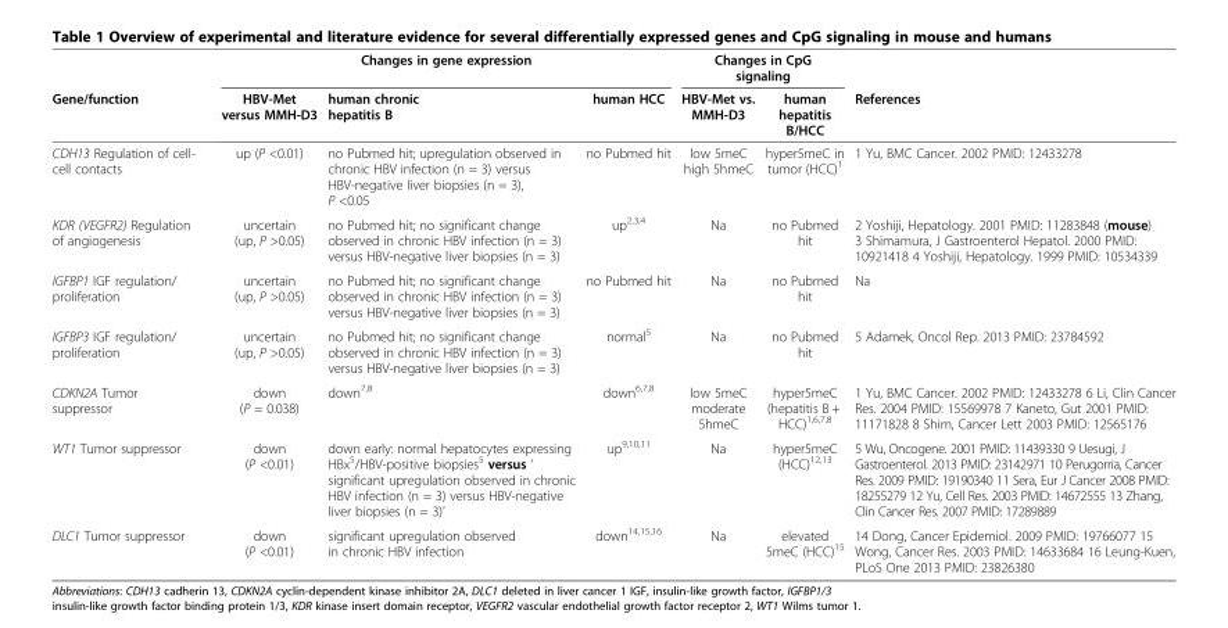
<table><thead><tr><td rowspan="2">Gene/function</td><td colspan="3">Changes in gene expression</td><td colspan="2">Changes in CpG signaling</td><td rowspan="2">References</td></tr><tr><td>HBV-Met versus MMH-D3</td><td>human chronic hepatitis B</td><td>human HCC</td><td>HBV-Met vs. MMH-D3</td><td>human hepatitis B/HCC</td></tr></thead><tbody><tr><td>CDH13 Regulation of cell- cell contacts</td><td>up (P &lt;0.01)</td><td>no Pubmed hit; upregulation observed in chronic HBV infection (n = 3) versus HBV-negative liver biopsies (n = 3), P &lt;0.05</td><td>no Pubmed hit</td><td>low 5meC high 5hmeC</td><td>hyper5meC in tumor (HCC)<sup>1</sup></td><td>1 Yu, BMC Cancer. 2002 PMID: 12433278</td></tr><tr><td>KDR (VEGFR2) Regulation of angiogenesis</td><td>uncertain (up, P &gt;0.05)</td><td>no Pubmed hit; no significant change observed in chronic HBV infection (n = 3) versus HBV-negative liver biopsies (n = 3)</td><td>up<sup>2,3,4</sup></td><td>Na</td><td>no Pubmed hit</td><td>2 Yoshiji, Hepatology. 2001 PMID: 11283848 (mouse) 3 Shimamura, J Gastroenterol Hepatol. 2000 PMID: 10921418 4 Yoshiji, Hepatology. 1999 PMID: 10534339</td></tr><tr><td>IGFBP1 IGF regulation/ proliferation</td><td>uncertain (up, P &gt;0.05)</td><td>no Pubmed hit; no significant change observed in chronic HBV infection (n = 3) versus HBV-negative liver biopsies (n = 3)</td><td>no Pubmed hit</td><td>Na</td><td>no Pubmed hit</td><td>Na</td></tr><tr><td>IGFBP3 IGF regulation/ proliferation</td><td>uncertain (up, P &gt;0.05)</td><td>no Pubmed hit; no significant change observed in chronic HBV infection (n = 3) versus HBV-negative liver biopsies (n = 3)</td><td>normal<sup>5</sup></td><td>Na</td><td>no Pubmed hit</td><td>5 Adamek, Oncol Rep. 2013 PMID: 23784592</td></tr><tr><td>CDKN2A Tumor suppressor</td><td>down (P = 0.038)</td><td>down<sup>7,8</sup></td><td>down<sup>6,7,8</sup></td><td>low 5meC moderate 5hmeC</td><td>hyper5meC (hepatitis B + HCC)<sup>1,6,7,8</sup></td><td>1 Yu, BMC Cancer. 2002 PMID: 12433278 6 Li, Clin Cancer Res. 2004 PMID: 15569978 7 Kaneto, Gut 2001 PMID: 11171828 8 Shim, Cancer Lett 2003 PMID: 12565176</td></tr><tr><td>WT1 Tumor suppressor</td><td>down (P &lt;0.01)</td><td>down early: normal hepatocytes expressing HBx<sup>5</sup>/HBV-positive biopsies<sup>5</sup> versus ‘ significant upregulation observed in chronic HBV infection (n = 3) versus HBV-negative liver biopsies (n = 3)’</td><td>up<sup>9,10,11</sup></td><td>Na</td><td>hyper5meC (HCC)<sup>12,13</sup></td><td>5 Wu, Oncogene. 2001 PMID: 11439330 9 Uesugi, J Gastroenterol. 2013 PMID: 23142971 10 Perugorria, Cancer Res. 2009 PMID: 19190340 11 Sera, Eur J Cancer 2008 PMID: 18255279 12 Yu, Cell Res. 2003 PMID: 14672555 13 Zhang, Clin Cancer Res. 2007 PMID: 17289889</td></tr><tr><td>DLC1 Tumor suppressor</td><td>down (P &lt;0.01)</td><td>significant upregulation observed in chronic HBV infection</td><td>down<sup>14,15,16</sup></td><td>Na</td><td>elevated 5meC (HCC)<sup>15</sup></td><td>14 Dong, Cancer Epidemiol. 2009 PMID: 19766077 15 Wong, Cancer Res. 2003 PMID: 14633684 16 Leung-Kuen, PLoS One 2013 PMID: 23826380</td></tr></tbody></table>